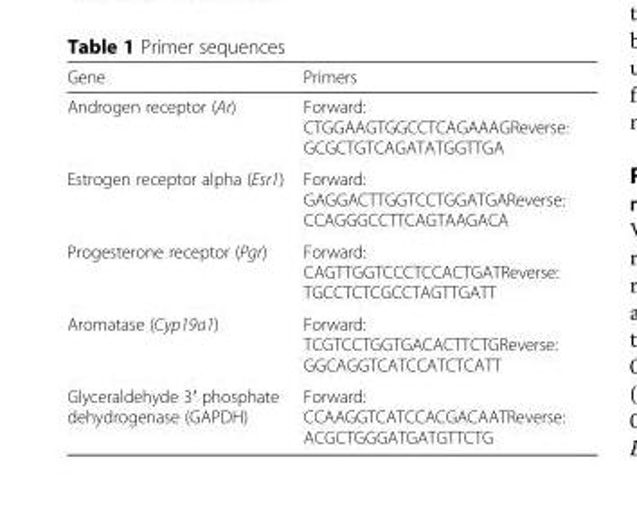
<table><thead><tr><td>Gene</td><td>Primers</td></tr></thead><tbody><tr><td>Androgen receptor (Ar)</td><td>Forward: CTGGAAGTGGCCTCAGAAAGReverse: GCGCTGTCAGATATGGTTGA</td></tr><tr><td>Estrogen receptor alpha (Esr1)</td><td>Forward: GAGGACTTGGTCCTGGATGAReverse: CCAGGGCCTTCAGTAAGACA</td></tr><tr><td>Progesterone receptor (Pgr)</td><td>Forward: CAGTTGGTCCCTCCACTGATReverse: TGCCTCTCGCCTAGTTGATT</td></tr><tr><td>Aromatase (Cyp19a1)</td><td>Forward: TCGTCCTGGTGACACTTCTGReverse: GGCAGGTCATCCATCTCATT</td></tr><tr><td>Glyceraldehyde 3′ phosphate dehydrogenase (GAPDH)</td><td>Forward: CCAAGGTCATCCACGACAATReverse: ACGCTGGGATGATGTTCTG</td></tr></tbody></table>